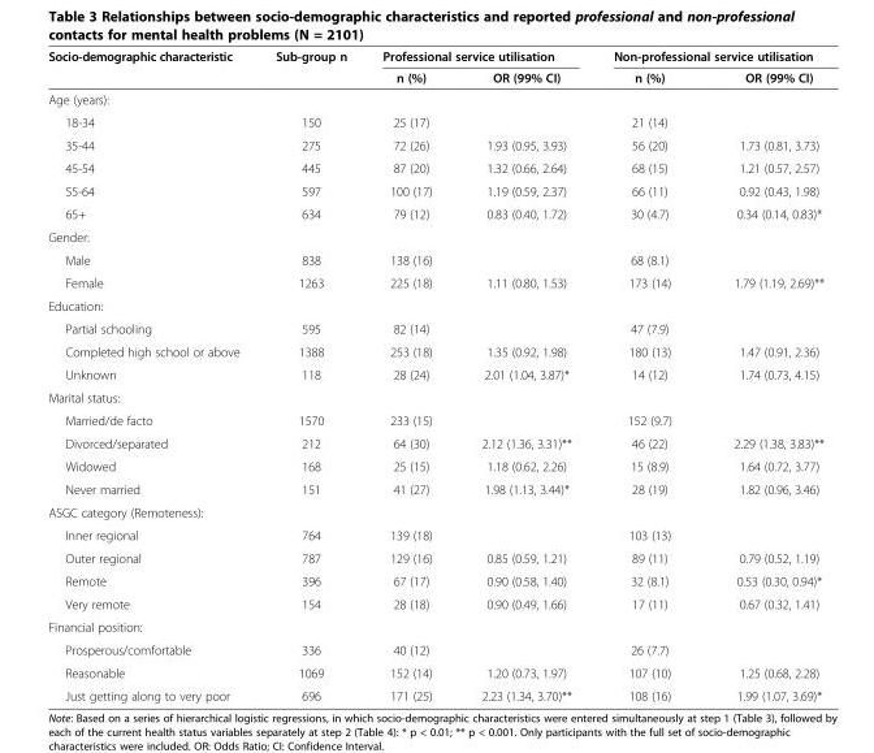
<table><thead><tr><td rowspan="2">Socio-demographic characteristic</td><td rowspan="2">Sub-group n</td><td colspan="2">Professional service utilisation</td><td colspan="2">Non-professional service utilisation</td></tr><tr><td>n (%)</td><td>OR (99% CI)</td><td>n (%)</td><td>OR (99% CI)</td></tr></thead><tbody><tr><td colspan="6">Age (years):</td></tr><tr><td>18-34</td><td>150</td><td>25 (17)</td><td></td><td>21 (14)</td><td></td></tr><tr><td>35-44</td><td>275</td><td>72 (26)</td><td>1.93 (0.95, 3.93)</td><td>56 (20)</td><td>1.73 (0.81, 3.73)</td></tr><tr><td>45-54</td><td>445</td><td>87 (20)</td><td>1.32 (0.66, 2.64)</td><td>68 (15)</td><td>1.21 (0.57, 2.57)</td></tr><tr><td>55-64</td><td>597</td><td>100 (17)</td><td>1.19 (0.59, 2.37)</td><td>66 (11)</td><td>0.92 (0.43, 1.98)</td></tr><tr><td>65+</td><td>634</td><td>79 (12)</td><td>0.83 (0.40, 1.72)</td><td>30 (4.7)</td><td>0.34 (0.14, 0.83)*</td></tr><tr><td colspan="6">Gender:</td></tr><tr><td>Male</td><td>838</td><td>138 (16)</td><td></td><td>68 (8.1)</td><td></td></tr><tr><td>Female</td><td>1263</td><td>225 (18)</td><td>1.11 (0.80, 1.53)</td><td>173 (14)</td><td>1.79 (1.19, 2.69)**</td></tr><tr><td colspan="6">Education:</td></tr><tr><td>Partial schooling</td><td>595</td><td>82 (14)</td><td></td><td>47 (7.9)</td><td></td></tr><tr><td>Completed high school or above</td><td>1388</td><td>253 (18)</td><td>1.35 (0.92, 1.98)</td><td>180 (13)</td><td>1.47 (0.91, 2.36)</td></tr><tr><td>Unknown</td><td>118</td><td>28 (24)</td><td>2.01 (1.04, 3.87)*</td><td>14 (12)</td><td>1.74 (0.73, 4.15)</td></tr><tr><td colspan="6">Marital status:</td></tr><tr><td>Married/de facto</td><td>1570</td><td>233 (15)</td><td></td><td>152 (9.7)</td><td></td></tr><tr><td>Divorced/separated</td><td>212</td><td>64 (30)</td><td>2.12 (1.36, 3.31)**</td><td>46 (22)</td><td>2.29 (1.38, 3.83)**</td></tr><tr><td>Widowed</td><td>168</td><td>25 (15)</td><td>1.18 (0.62, 2.26)</td><td>15 (8.9)</td><td>1.64 (0.72, 3.77)</td></tr><tr><td>Never married</td><td>151</td><td>41 (27)</td><td>1.98 (1.13, 3.44)*</td><td>28 (19)</td><td>1.82 (0.96, 3.46)</td></tr><tr><td colspan="6">ASGC category (Remoteness):</td></tr><tr><td>Inner regional</td><td>764</td><td>139 (18)</td><td></td><td>103 (13)</td><td></td></tr><tr><td>Outer regional</td><td>787</td><td>129 (16)</td><td>0.85 (0.59, 1.21)</td><td>89 (11)</td><td>0.79 (0.52, 1.19)</td></tr><tr><td>Remote</td><td>396</td><td>67 (17)</td><td>0.90 (0.58, 1.40)</td><td>32 (8.1)</td><td>0.53 (0.30, 0.94)*</td></tr><tr><td>Very remote</td><td>154</td><td>28 (18)</td><td>0.90 (0.49, 1.66)</td><td>17 (11)</td><td>0.67 (0.32, 1.41)</td></tr><tr><td colspan="6">Financial position:</td></tr><tr><td>Prosperous/comfortable</td><td>336</td><td>40 (12)</td><td></td><td>26 (7.7)</td><td></td></tr><tr><td>Reasonable</td><td>1069</td><td>152 (14)</td><td>1.20 (0.73, 1.97)</td><td>107 (10)</td><td>1.25 (0.68, 2.28)</td></tr><tr><td>Just getting along to very poor</td><td>696</td><td>171 (25)</td><td>2.23 (1.34, 3.70)**</td><td>108 (16)</td><td>1.99 (1.07, 3.69)*</td></tr></tbody></table>